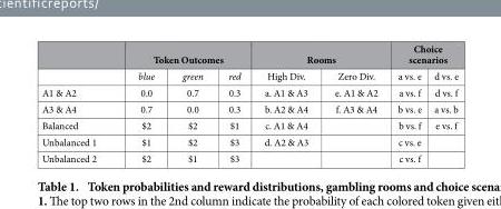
<table><thead><tr><td rowspan="2"></td><td colspan="3">Token Outcomes</td><td colspan="2">Rooms</td><td colspan="2">Choice scenarios</td></tr><tr><td>blue</td><td>green</td><td>red</td><td>High Div.</td><td>Zero Div.</td><td>a vs. e</td><td>d vs. e</td></tr></thead><tbody><tr><td>A1 &amp; A2</td><td>0.0</td><td>0.7</td><td>0.3</td><td>a. A1 &amp; A3</td><td>e. A1 &amp; A2</td><td>a vs. f</td><td>d vs. f</td></tr><tr><td>A3 &amp; A4</td><td>0.7</td><td>0.0</td><td>0.3</td><td>b. A2 &amp; A4</td><td>f. A3 &amp; A4</td><td>b vs. e</td><td>a vs. b</td></tr><tr><td>Balanced</td><td>$2</td><td>$2</td><td>$1</td><td>c. A1 &amp; A4</td><td></td><td>b vs. f</td><td>e vs. f</td></tr><tr><td>Unbalanced 1</td><td>$1</td><td>$2</td><td>$3</td><td>d. A2 &amp; A3</td><td></td><td>c vs. e</td><td></td></tr><tr><td>Unbalanced 2</td><td>$2</td><td>$1</td><td>$3</td><td></td><td></td><td>c vs. f</td><td></td></tr></tbody></table>